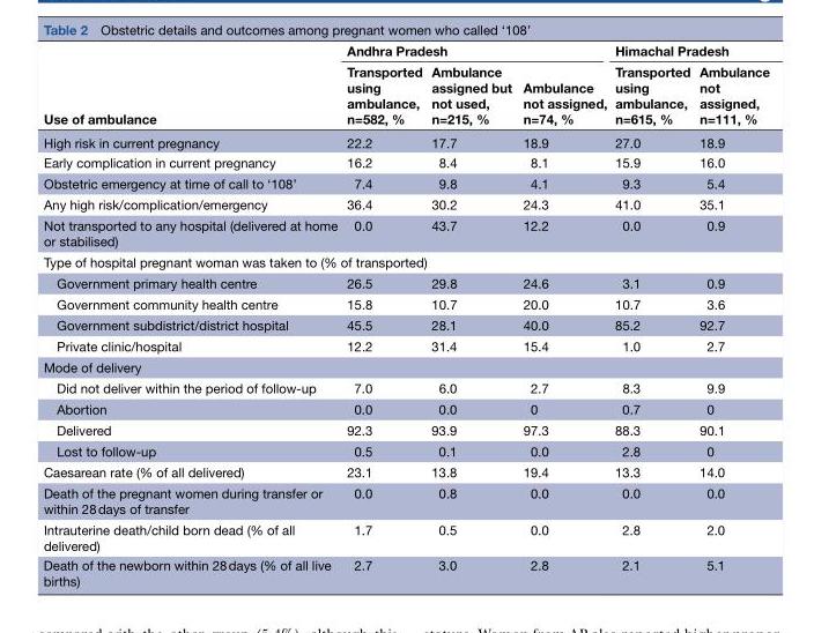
<table><thead><tr><td rowspan="2">Use of ambulance</td><td colspan="3">Andhra Pradesh</td><td colspan="2">Himachal Pradesh</td></tr><tr><td>Transported using ambulance, n=582, %</td><td>Ambulance assigned but not used, n=215, %</td><td>Ambulance not assigned, n=74, %</td><td>Transported using ambulance, n=615, %</td><td>Ambulance not assigned, n=111, %</td></tr></thead><tbody><tr><td>High risk in current pregnancy</td><td>22.2</td><td>17.7</td><td>18.9</td><td>27.0</td><td>18.9</td></tr><tr><td>Early complication in current pregnancy</td><td>16.2</td><td>8.4</td><td>8.1</td><td>15.9</td><td>16.0</td></tr><tr><td>Obstetric emergency at time of call to ‘108’</td><td>7.4</td><td>9.8</td><td>4.1</td><td>9.3</td><td>5.4</td></tr><tr><td>Any high risk/complication/emergency</td><td>36.4</td><td>30.2</td><td>24.3</td><td>41.0</td><td>35.1</td></tr><tr><td>Not transported to any hospital (delivered at home or stabilised)</td><td>0.0</td><td>43.7</td><td>12.2</td><td>0.0</td><td>0.9</td></tr><tr><td colspan="6">Type of hospital pregnant woman was taken to (% of transported)</td></tr><tr><td>Government primary health centre</td><td>26.5</td><td>29.8</td><td>24.6</td><td>3.1</td><td>0.9</td></tr><tr><td>Government community health centre</td><td>15.8</td><td>10.7</td><td>20.0</td><td>10.7</td><td>3.6</td></tr><tr><td>Government subdistrict/district hospital</td><td>45.5</td><td>28.1</td><td>40.0</td><td>85.2</td><td>92.7</td></tr><tr><td>Private clinic/hospital</td><td>12.2</td><td>31.4</td><td>15.4</td><td>1.0</td><td>2.7</td></tr><tr><td colspan="6">Mode of delivery</td></tr><tr><td>Did not deliver within the period of follow-up</td><td>7.0</td><td>6.0</td><td>2.7</td><td>8.3</td><td>9.9</td></tr><tr><td>Abortion</td><td>0.0</td><td>0.0</td><td>0</td><td>0.7</td><td>0</td></tr><tr><td>Delivered</td><td>92.3</td><td>93.9</td><td>97.3</td><td>88.3</td><td>90.1</td></tr><tr><td>Lost to follow-up</td><td>0.5</td><td>0.1</td><td>0.0</td><td>2.8</td><td>0</td></tr><tr><td>Caesarean rate (% of all delivered)</td><td>23.1</td><td>13.8</td><td>19.4</td><td>13.3</td><td>14.0</td></tr><tr><td>Death of the pregnant women during transfer or within 28 days of transfer</td><td>0.0</td><td>0.8</td><td>0.0</td><td>0.0</td><td>0.0</td></tr><tr><td>Intrauterine death/child born dead (% of all delivered)</td><td>1.7</td><td>0.5</td><td>0.0</td><td>2.8</td><td>2.0</td></tr><tr><td>Death of the newborn within 28 days (% of all live births)</td><td>2.7</td><td>3.0</td><td>2.8</td><td>2.1</td><td>5.1</td></tr></tbody></table>